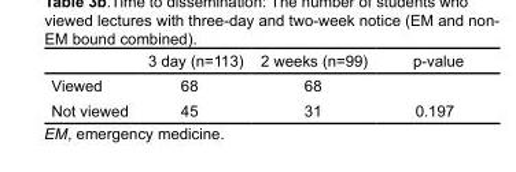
<table><thead><tr><td></td><td>3 day (n=113)</td><td>2 weeks (n=99)</td><td>p-value</td></tr></thead><tbody><tr><td>Viewed</td><td>68</td><td>68</td><td></td></tr><tr><td>Not viewed</td><td>45</td><td>31</td><td>0.197</td></tr></tbody></table>